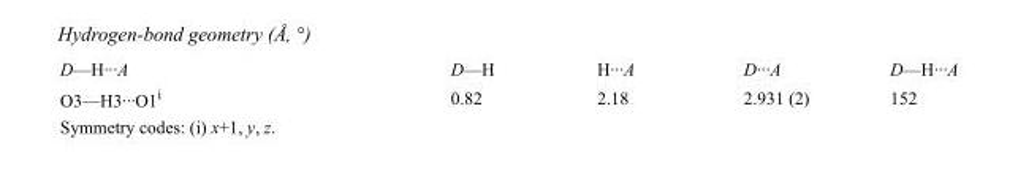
<table><tbody><tr><td>D—H···A</td><td>D—H</td><td>H···A</td><td>D···A</td><td>D—H···A</td></tr><tr><td>O3—H3···O1<sup>i</sup></td><td>0.82</td><td>2.18</td><td>2.931 (2)</td><td>152</td></tr></tbody></table>